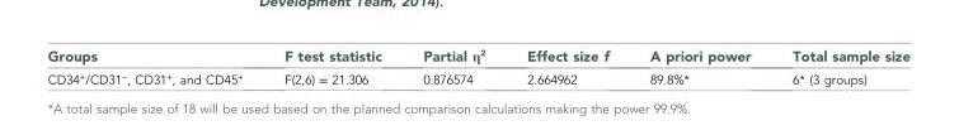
<table><thead><tr><td>Groups</td><td>F test statistic</td><td>Partial η<sup>2</sup></td><td>Effect size f</td><td>A priori power</td><td>Total sample size</td></tr></thead><tbody><tr><td>CD34<sup>+</sup>/CD31<sup>−</sup>, CD31<sup>+</sup>, and CD45<sup>+</sup></td><td>F(2,6) = 21.306</td><td>0.876574</td><td>2.664962</td><td>89.8%*</td><td>6* (3 groups)</td></tr></tbody></table>